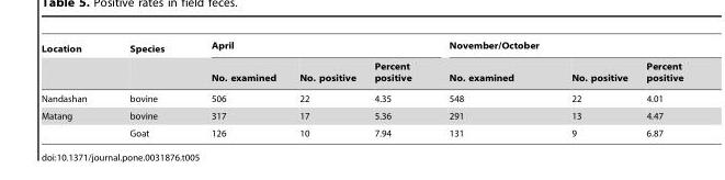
<table><thead><tr><td rowspan="2">Location</td><td rowspan="2">Species</td><td colspan="3">April</td><td colspan="3">November/October</td></tr><tr><td>No. examined</td><td>No. positive</td><td>Percent positive</td><td>No. examined</td><td>No. positive</td><td>Percent positive</td></tr></thead><tbody><tr><td>Nandashan</td><td>bovine</td><td>506</td><td>22</td><td>4.35</td><td>548</td><td>22</td><td>4.01</td></tr><tr><td rowspan="2">Matang</td><td>bovine</td><td>317</td><td>17</td><td>5.36</td><td>291</td><td>13</td><td>4.47</td></tr><tr><td>Goat</td><td>126</td><td>10</td><td>7.94</td><td>131</td><td>9</td><td>6.87</td></tr></tbody></table>